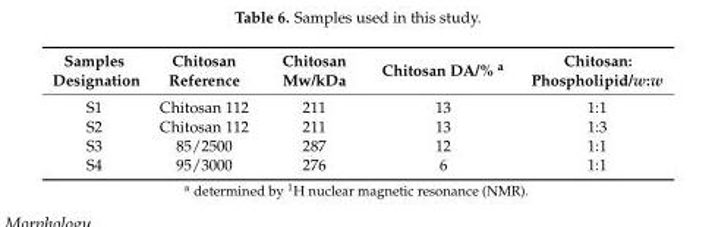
<table><thead><tr><td>Samples Designation</td><td>Chitosan Reference</td><td>Chitosan Mw/kDa</td><td>Chitosan DA/% <sup>a</sup></td><td>Chitosan: Phospholipid/w:w</td></tr></thead><tbody><tr><td>S1</td><td>Chitosan 112</td><td>211</td><td>13</td><td>1:1</td></tr><tr><td>S2</td><td>Chitosan 112</td><td>211</td><td>13</td><td>1:3</td></tr><tr><td>S3</td><td>85/2500</td><td>287</td><td>12</td><td>1:1</td></tr><tr><td>S4</td><td>95/3000</td><td>276</td><td>6</td><td>1:1</td></tr></tbody></table>